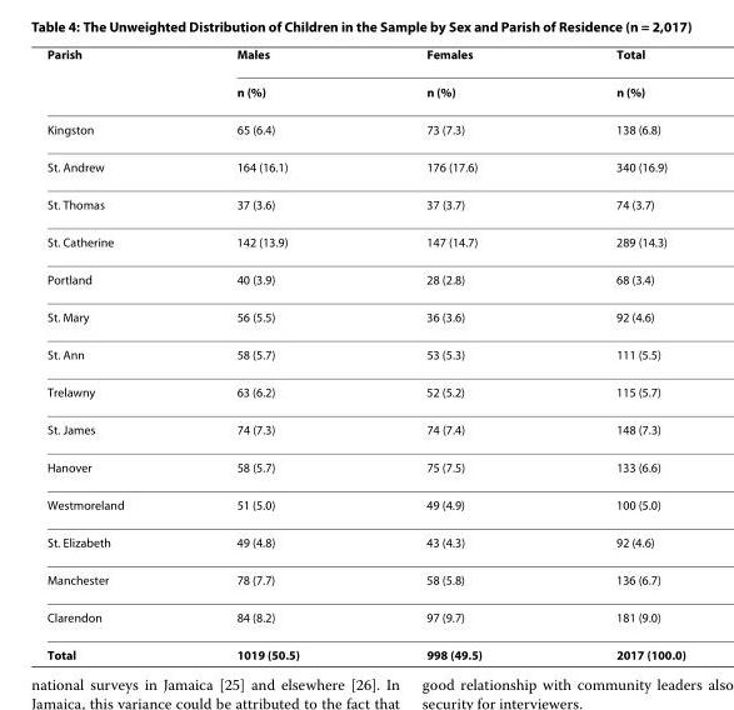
<table><thead><tr><td rowspan="2">Parish</td><td rowspan="2">Males n (%)</td><td rowspan="2">Females n (%)</td><td rowspan="2">Total n (%)</td></tr><tr></tr></thead><tbody><tr><td>Kingston</td><td>65 (6.4)</td><td>73 (7.3)</td><td>138 (6.8)</td></tr><tr><td>St. Andrew</td><td>164 (16.1)</td><td>176 (17.6)</td><td>340 (16.9)</td></tr><tr><td>St. Thomas</td><td>37 (3.6)</td><td>37 (3.7)</td><td>74 (3.7)</td></tr><tr><td>St. Catherine</td><td>142 (13.9)</td><td>147 (14.7)</td><td>289 (14.3)</td></tr><tr><td>Portland</td><td>40 (3.9)</td><td>28 (2.8)</td><td>68 (3.4)</td></tr><tr><td>St. Mary</td><td>56 (5.5)</td><td>36 (3.6)</td><td>92 (4.6)</td></tr><tr><td>St. Ann</td><td>58 (5.7)</td><td>53 (5.3)</td><td>111 (5.5)</td></tr><tr><td>Trelawny</td><td>63 (6.2)</td><td>52 (5.2)</td><td>115 (5.7)</td></tr><tr><td>St. James</td><td>74 (7.3)</td><td>74 (7.4)</td><td>148 (7.3)</td></tr><tr><td>Hanover</td><td>58 (5.7)</td><td>75 (7.5)</td><td>133 (6.6)</td></tr><tr><td>Westmoreland</td><td>51 (5.0)</td><td>49 (4.9)</td><td>100 (5.0)</td></tr><tr><td>St. Elizabeth</td><td>49 (4.8)</td><td>43 (4.3)</td><td>92 (4.6)</td></tr><tr><td>Manchester</td><td>78 (7.7)</td><td>58 (5.8)</td><td>136 (6.7)</td></tr><tr><td>Clarendon</td><td>84 (8.2)</td><td>97 (9.7)</td><td>181 (9.0)</td></tr><tr><td>Total</td><td>1019 (50.5)</td><td>998 (49.5)</td><td>2017 (100.0)</td></tr></tbody></table>